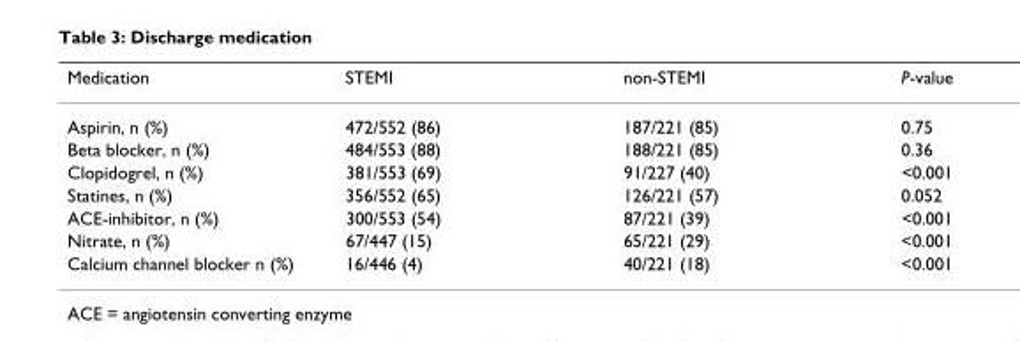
<table><thead><tr><td>Medication</td><td>STEMI</td><td>non-STEMI</td><td>P-value</td></tr></thead><tbody><tr><td>Aspirin, n (%)</td><td>472/552 (86)</td><td>187/221 (85)</td><td>0.75</td></tr><tr><td>Beta blocker, n (%)</td><td>484/553 (88)</td><td>188/221 (85)</td><td>0.36</td></tr><tr><td>Clopidogrel, n (%)</td><td>381/553 (69)</td><td>91/227 (40)</td><td>&lt;0.001</td></tr><tr><td>Statines, n (%)</td><td>356/552 (65)</td><td>126/221 (57)</td><td>0.052</td></tr><tr><td>ACE-inhibitor, n (%)</td><td>300/553 (54)</td><td>87/221 (39)</td><td>&lt;0.001</td></tr><tr><td>Nitrate, n (%)</td><td>67/447 (15)</td><td>65/221 (29)</td><td>&lt;0.001</td></tr><tr><td>Calcium channel blocker n (%)</td><td>16/446 (4)</td><td>40/221 (18)</td><td>&lt;0.001</td></tr></tbody></table>